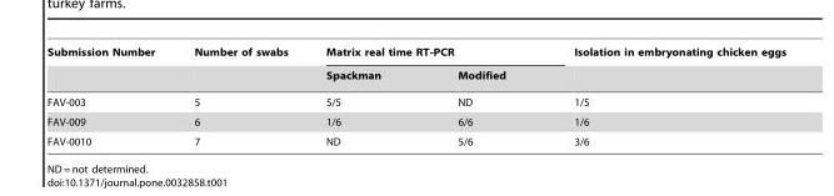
<table><thead><tr><td rowspan="2">Submission Number</td><td rowspan="2">Number of swabs</td><td colspan="2">Matrix real time RT-PCR</td><td rowspan="2">Isolation in embryonating chicken eggs</td></tr><tr><td>Spackman</td><td>Modified</td></tr></thead><tbody><tr><td>FAV-003</td><td>5</td><td>5/5</td><td>ND</td><td>1/5</td></tr><tr><td>FAV-009</td><td>6</td><td>1/6</td><td>6/6</td><td>1/6</td></tr><tr><td>FAV-0010</td><td>7</td><td>ND</td><td>5/6</td><td>3/6</td></tr></tbody></table>